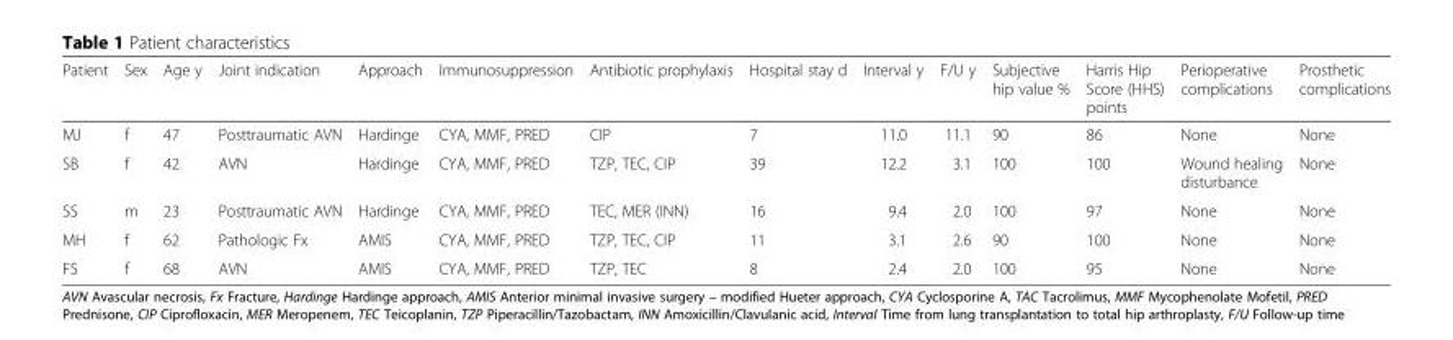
<table><thead><tr><td>Patient</td><td>Sex</td><td>Age y</td><td>Joint indication</td><td>Approach</td><td>Immunosuppression</td><td>Antibiotic prophylaxis</td><td>Hospital stay d</td><td>Interval y</td><td>F/U y</td><td>Subjective hip value %</td><td>Harris Hip Score (HHS) points</td><td>Perioperative complications</td><td>Prosthetic complications</td></tr></thead><tbody><tr><td>MJ</td><td>f</td><td>47</td><td>Posttraumatic AVN</td><td>Hardinge</td><td>CYA, MMF, PRED</td><td>CIP</td><td>7</td><td>11.0</td><td>11.1</td><td>90</td><td>86</td><td>None</td><td>None</td></tr><tr><td>SB</td><td>f</td><td>42</td><td>AVN</td><td>Hardinge</td><td>CYA, MMF, PRED</td><td>TZP, TEC, CIP</td><td>39</td><td>12.2</td><td>3.1</td><td>100</td><td>100</td><td>Wound healing disturbance</td><td>None</td></tr><tr><td>SS</td><td>m</td><td>23</td><td>Posttraumatic AVN</td><td>Hardinge</td><td>CYA, MMF, PRED</td><td>TEC, MER (INN)</td><td>16</td><td>9.4</td><td>2.0</td><td>100</td><td>97</td><td>None</td><td>None</td></tr><tr><td>MH</td><td>f</td><td>62</td><td>Pathologic Fx</td><td>AMIS</td><td>CYA, MMF, PRED</td><td>TZP, TEC, CIP</td><td>11</td><td>3.1</td><td>2.6</td><td>90</td><td>100</td><td>None</td><td>None</td></tr><tr><td>FS</td><td>f</td><td>68</td><td>AVN</td><td>AMIS</td><td>CYA, MMF, PRED</td><td>TZP, TEC</td><td>8</td><td>2.4</td><td>2.0</td><td>100</td><td>95</td><td>None</td><td>None</td></tr></tbody></table>